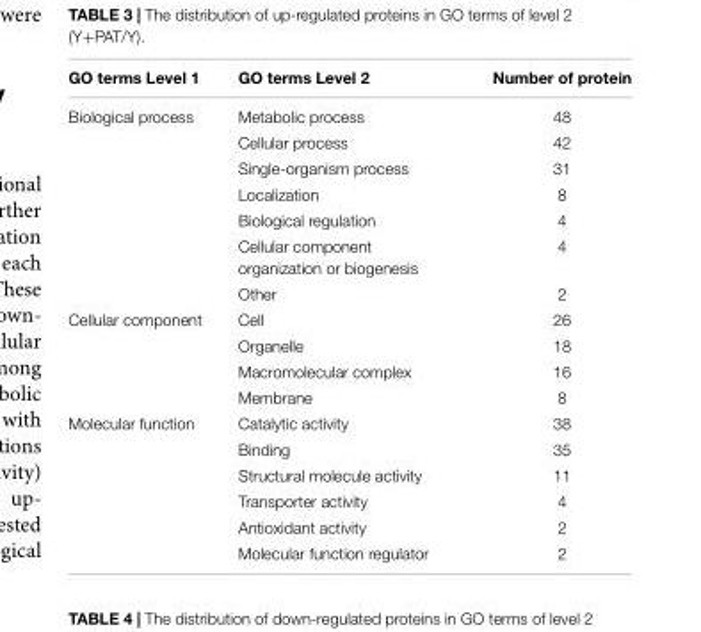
<table><thead><tr><td>GO terms Level 1</td><td>GO terms Level 2</td><td>Number of protein</td></tr></thead><tbody><tr><td rowspan="7">Biological process</td><td>Metabolic process</td><td>48</td></tr><tr><td>Cellular process</td><td>42</td></tr><tr><td>Single-organism process</td><td>31</td></tr><tr><td>Localization</td><td>8</td></tr><tr><td>Biological regulation</td><td>4</td></tr><tr><td>Cellular component organization or biogenesis</td><td>4</td></tr><tr><td>Other</td><td>2</td></tr><tr><td rowspan="4">Cellular component</td><td>Cell</td><td>26</td></tr><tr><td>Organelle</td><td>18</td></tr><tr><td>Macromolecular complex</td><td>16</td></tr><tr><td>Membrane</td><td>8</td></tr><tr><td rowspan="6">Molecular function</td><td>Catalytic activity</td><td>38</td></tr><tr><td>Binding</td><td>35</td></tr><tr><td>Structural molecule activity</td><td>11</td></tr><tr><td>Transporter activity</td><td>4</td></tr><tr><td>Antioxidant activity</td><td>2</td></tr><tr><td>Molecular function regulator</td><td>2</td></tr></tbody></table>